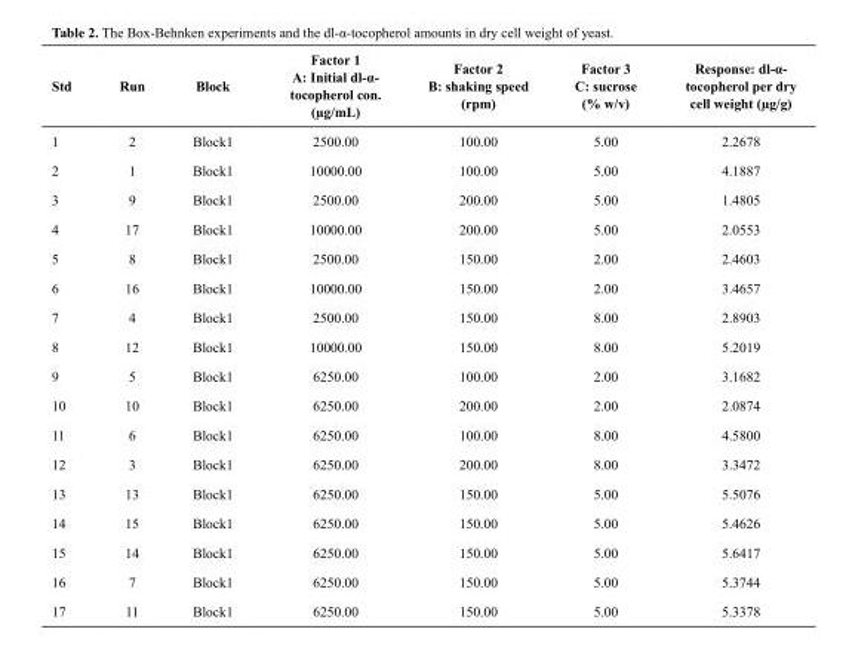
<table><thead><tr><td>Response: dl-α- tocopherol per dry cell weight (µg/g)</td><td>Factor 3 C: sucrose (% w/v)</td><td>Factor 2 B: shaking speed (rpm)</td><td>Factor 1 A: Initial dl-α- tocopherol con. (µg/mL)</td><td>Block</td><td>Run</td><td>Std</td></tr></thead><tbody><tr><td>2.2678</td><td>5.00</td><td>100.00</td><td>2500.00</td><td>Block1</td><td>2</td><td>1</td></tr><tr><td>4.1887</td><td>5.00</td><td>100.00</td><td>10000.00</td><td>Block1</td><td>1</td><td>2</td></tr><tr><td>1.4805</td><td>5.00</td><td>200.00</td><td>2500.00</td><td>Block1</td><td>9</td><td>3</td></tr><tr><td>2.0553</td><td>5.00</td><td>200.00</td><td>10000.00</td><td>Block1</td><td>17</td><td>4</td></tr><tr><td>2.4603</td><td>2.00</td><td>150.00</td><td>2500.00</td><td>Block1</td><td>8</td><td>5</td></tr><tr><td>3.4657</td><td>2.00</td><td>150.00</td><td>10000.00</td><td>Block1</td><td>16</td><td>6</td></tr><tr><td>2.8903</td><td>8.00</td><td>150.00</td><td>2500.00</td><td>Block1</td><td>4</td><td>7</td></tr><tr><td>5.2019</td><td>8.00</td><td>150.00</td><td>10000.00</td><td>Block1</td><td>12</td><td>8</td></tr><tr><td>3.1682</td><td>2.00</td><td>100.00</td><td>6250.00</td><td>Block1</td><td>5</td><td>9</td></tr><tr><td>2.0874</td><td>2.00</td><td>200.00</td><td>6250.00</td><td>Block1</td><td>10</td><td>10</td></tr><tr><td>4.5800</td><td>8.00</td><td>100.00</td><td>6250.00</td><td>Block1</td><td>6</td><td>11</td></tr><tr><td>3.3472</td><td>8.00</td><td>200.00</td><td>6250.00</td><td>Block1</td><td>3</td><td>12</td></tr><tr><td>5.5076</td><td>5.00</td><td>150.00</td><td>6250.00</td><td>Block1</td><td>13</td><td>13</td></tr><tr><td>5.4626</td><td>5.00</td><td>150.00</td><td>6250.00</td><td>Block1</td><td>15</td><td>14</td></tr><tr><td>5.6417</td><td>5.00</td><td>150.00</td><td>6250.00</td><td>Block1</td><td>14</td><td>15</td></tr><tr><td>5.3744</td><td>5.00</td><td>150.00</td><td>6250.00</td><td>Block1</td><td>7</td><td>16</td></tr><tr><td>5.3378</td><td>5.00</td><td>150.00</td><td>6250.00</td><td>Block1</td><td>11</td><td>17</td></tr></tbody></table>